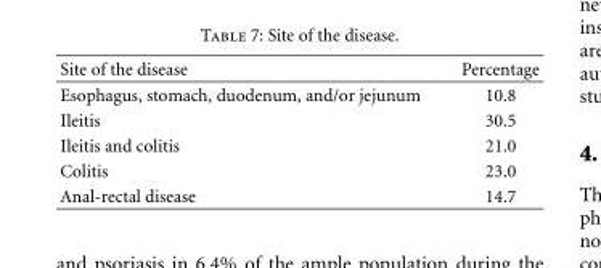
<table><thead><tr><td>Site of the disease</td><td>Percentage</td></tr></thead><tbody><tr><td>Esophagus, stomach, duodenum, and/or jejunum</td><td>10.8</td></tr><tr><td>Ileitis</td><td>30.5</td></tr><tr><td>Ileitis and colitis</td><td>21.0</td></tr><tr><td>Colitis</td><td>23.0</td></tr><tr><td>Anal-rectal disease</td><td>14.7</td></tr></tbody></table>